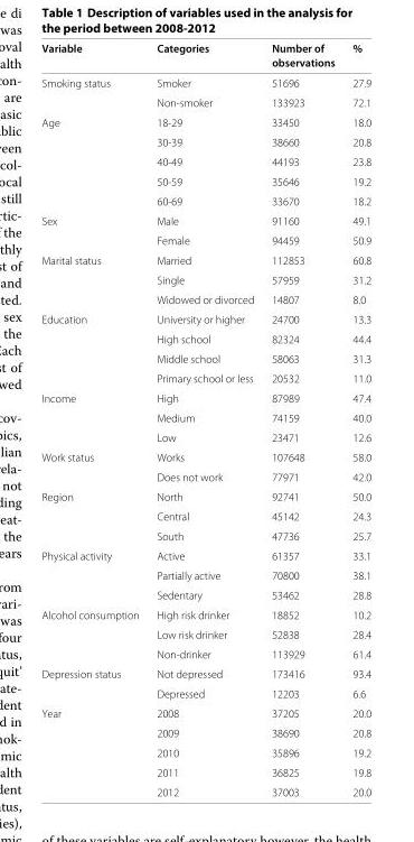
<table><thead><tr><td rowspan="2">Variable</td><td rowspan="2">Categories</td><td rowspan="2">Number of observations</td><td rowspan="2">%</td></tr><tr></tr></thead><tbody><tr><td rowspan="2">Smoking status</td><td>Smoker</td><td>51696</td><td>27.9</td></tr><tr><td>Non-smoker</td><td>133923</td><td>72.1</td></tr><tr><td rowspan="5">Age</td><td>18-29</td><td>33450</td><td>18.0</td></tr><tr><td>30-39</td><td>38660</td><td>20.8</td></tr><tr><td>40-49</td><td>44193</td><td>23.8</td></tr><tr><td>50-59</td><td>35646</td><td>19.2</td></tr><tr><td>60-69</td><td>33670</td><td>18.2</td></tr><tr><td rowspan="2">Sex</td><td>Male</td><td>91160</td><td>49.1</td></tr><tr><td>Female</td><td>94459</td><td>50.9</td></tr><tr><td rowspan="3">Marital status</td><td>Married</td><td>112853</td><td>60.8</td></tr><tr><td>Single</td><td>57959</td><td>31.2</td></tr><tr><td>Widowed or divorced</td><td>14807</td><td>8.0</td></tr><tr><td rowspan="4">Education</td><td>University or higher</td><td>24700</td><td>13.3</td></tr><tr><td>High school</td><td>82324</td><td>44.4</td></tr><tr><td>Middle school</td><td>58063</td><td>31.3</td></tr><tr><td>Primary school or less</td><td>20532</td><td>11.0</td></tr><tr><td rowspan="3">Income</td><td>High</td><td>87989</td><td>47.4</td></tr><tr><td>Medium</td><td>74159</td><td>40.0</td></tr><tr><td>Low</td><td>23471</td><td>12.6</td></tr><tr><td rowspan="2">Work status</td><td>Works</td><td>107648</td><td>58.0</td></tr><tr><td>Does not work</td><td>77971</td><td>42.0</td></tr><tr><td rowspan="3">Region</td><td>North</td><td>92741</td><td>50.0</td></tr><tr><td>Central</td><td>45142</td><td>24.3</td></tr><tr><td>South</td><td>47736</td><td>25.7</td></tr><tr><td rowspan="3">Physical activity</td><td>Active</td><td>61357</td><td>33.1</td></tr><tr><td>Partially active</td><td>70800</td><td>38.1</td></tr><tr><td>Sedentary</td><td>53462</td><td>28.8</td></tr><tr><td rowspan="3">Alcohol consumption</td><td>High risk drinker</td><td>18852</td><td>10.2</td></tr><tr><td>Low risk drinker</td><td>52838</td><td>28.4</td></tr><tr><td>Non-drinker</td><td>113929</td><td>61.4</td></tr><tr><td rowspan="2">Depression status</td><td>Not depressed</td><td>173416</td><td>93.4</td></tr><tr><td>Depressed</td><td>12203</td><td>6.6</td></tr><tr><td rowspan="5">Year</td><td>2008</td><td>37205</td><td>20.0</td></tr><tr><td>2009</td><td>38690</td><td>20.8</td></tr><tr><td>2010</td><td>35896</td><td>19.2</td></tr><tr><td>2011</td><td>36825</td><td>19.8</td></tr><tr><td>2012</td><td>37003</td><td>20.0</td></tr></tbody></table>